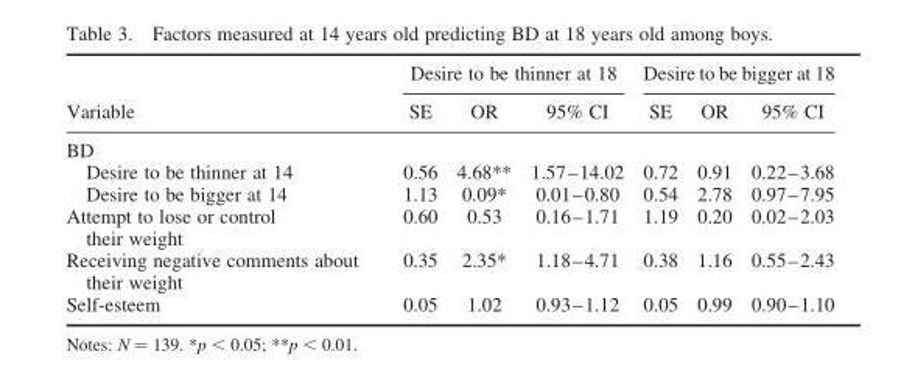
<table><thead><tr><td rowspan="2">Variable</td><td colspan="3">Desire to be thinner at 18</td><td colspan="3">Desire to be bigger at 18</td></tr><tr><td>SE</td><td>OR</td><td>95% CI</td><td>SE</td><td>OR</td><td>95% CI</td></tr></thead><tbody><tr><td colspan="7">BD</td></tr><tr><td>Desire to be thinner at 14</td><td>0.56</td><td>4.68**</td><td>1.57–14.02</td><td>0.72</td><td>0.91</td><td>0.22–3.68</td></tr><tr><td>Desire to be bigger at 14</td><td>1.13</td><td>0.09*</td><td>0.01–0.80</td><td>0.54</td><td>2.78</td><td>0.97–7.95</td></tr><tr><td>Attempt to lose or control their weight</td><td>0.60</td><td>0.53</td><td>0.16–1.71</td><td>1.19</td><td>0.20</td><td>0.02–2.03</td></tr><tr><td>Receiving negative comments about their weight</td><td>0.35</td><td>2.35*</td><td>1.18–4.71</td><td>0.38</td><td>1.16</td><td>0.55–2.43</td></tr><tr><td>Self-esteem</td><td>0.05</td><td>1.02</td><td>0.93–1.12</td><td>0.05</td><td>0.99</td><td>0.90–1.10</td></tr></tbody></table>